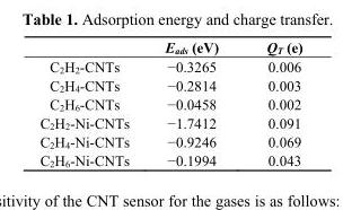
<table><thead><tr><td></td><td>E<sub>ads</sub> (eV)</td><td>Q<sub>T</sub> (e)</td></tr></thead><tbody><tr><td>C<sub>2</sub>H<sub>2</sub>-CNTs</td><td>−0.3265</td><td>0.006</td></tr><tr><td>C<sub>2</sub>H<sub>4</sub>-CNTs</td><td>−0.2814</td><td>0.003</td></tr><tr><td>C<sub>2</sub>H<sub>6</sub>-CNTs</td><td>−0.0458</td><td>0.002</td></tr><tr><td>C<sub>2</sub>H<sub>2</sub>-Ni-CNTs</td><td>−1.7412</td><td>0.091</td></tr><tr><td>C<sub>2</sub>H<sub>4</sub>-Ni-CNTs</td><td>−0.9246</td><td>0.069</td></tr><tr><td>C<sub>2</sub>H<sub>6</sub>-Ni-CNTs</td><td>−0.1994</td><td>0.043</td></tr></tbody></table>